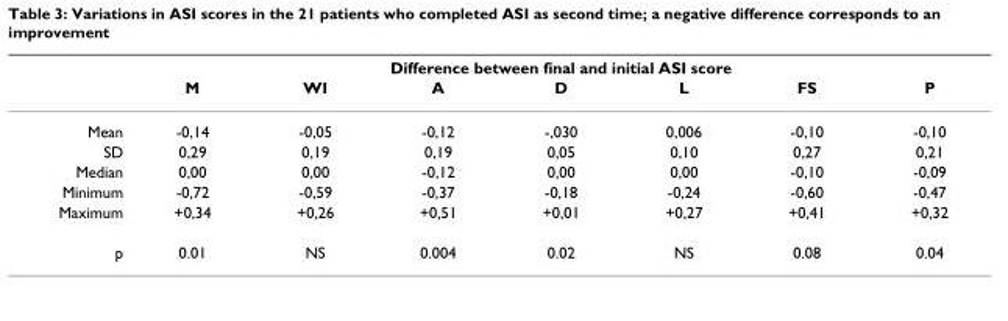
<table><thead><tr><td rowspan="2"></td><td colspan="7">Difference between final and initial ASI score</td></tr><tr><td>M</td><td>WI</td><td>A</td><td>D</td><td>L</td><td>FS</td><td>P</td></tr></thead><tbody><tr><td>Mean</td><td>-0,14</td><td>-0,05</td><td>-0,12</td><td>-,030</td><td>0,006</td><td>-0,10</td><td>-0,10</td></tr><tr><td>SD</td><td>0,29</td><td>0,19</td><td>0,19</td><td>0,05</td><td>0,10</td><td>0,27</td><td>0,21</td></tr><tr><td>Median</td><td>0,00</td><td>0,00</td><td>-0,12</td><td>0,00</td><td>0,00</td><td>-0,10</td><td>-0,09</td></tr><tr><td>Minimum</td><td>-0,72</td><td>-0,59</td><td>-0,37</td><td>-0,18</td><td>-0,24</td><td>-0,60</td><td>-0,47</td></tr><tr><td>Maximum</td><td>+0,34</td><td>+0,26</td><td>+0,51</td><td>+0,01</td><td>+0,27</td><td>+0,41</td><td>+0,32</td></tr><tr><td>p</td><td>0.01</td><td>NS</td><td>0.004</td><td>0.02</td><td>NS</td><td>0.08</td><td>0.04</td></tr></tbody></table>